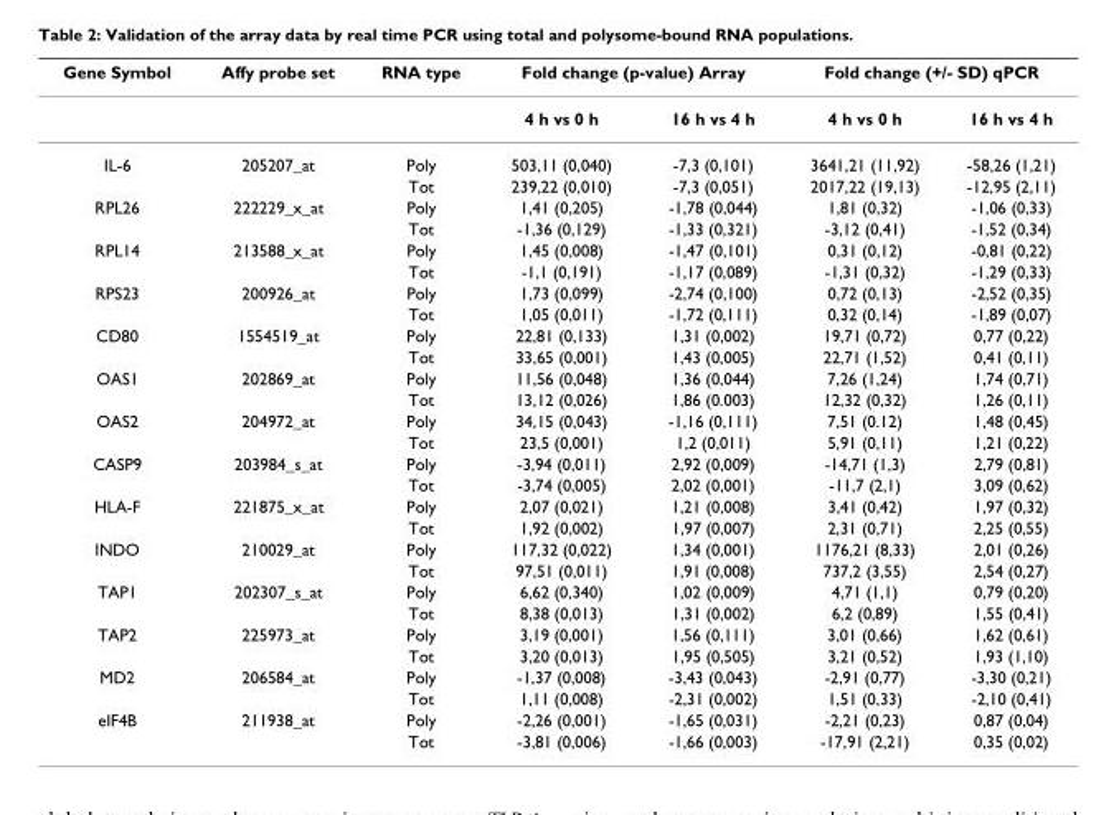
<table><thead><tr><td rowspan="2">Gene Symbol</td><td rowspan="2">Affy probe set</td><td rowspan="2">RNA type</td><td colspan="2">Fold change (p-value) Array</td><td colspan="2">Fold change (+/- SD) qPCR</td></tr><tr><td>4 h vs 0 h</td><td>16 h vs 4 h</td><td>4 h vs 0 h</td><td>16 h vs 4 h</td></tr></thead><tbody><tr><td rowspan="2">IL-6</td><td>205207_at</td><td>Poly</td><td>503,11 (0,040)</td><td>-7,3 (0,101)</td><td>3641,21 (11,92)</td><td>-58,26 (1,21)</td></tr><tr><td></td><td>Tot</td><td>239,22 (0,010)</td><td>-7,3 (0,051)</td><td>2017,22 (19,13)</td><td>-12,95 (2,11)</td></tr><tr><td rowspan="2">RPL26</td><td>222229_x_at</td><td>Poly</td><td>1,41 (0,205)</td><td>-1,78 (0,044)</td><td>1,81 (0,32)</td><td>-1,06 (0,33)</td></tr><tr><td></td><td>Tot</td><td>-1,36 (0,129)</td><td>-1,33 (0,321)</td><td>-3,12 (0,41)</td><td>-1,52 (0,34)</td></tr><tr><td rowspan="2">RPL14</td><td>213588_x_at</td><td>Poly</td><td>1,45 (0,008)</td><td>-1,47 (0,101)</td><td>0,31 (0,12)</td><td>-0,81 (0,22)</td></tr><tr><td></td><td>Tot</td><td>-1,1 (0,191)</td><td>-1,17 (0,089)</td><td>-1,31 (0,32)</td><td>-1,29 (0,33)</td></tr><tr><td rowspan="2">RPS23</td><td>200926_at</td><td>Poly</td><td>1,73 (0,099)</td><td>-2,74 (0,100)</td><td>0,72 (0,13)</td><td>-2,52 (0,35)</td></tr><tr><td></td><td>Tot</td><td>1,05 (0,011)</td><td>-1,72 (0,111)</td><td>0,32 (0,14)</td><td>-1,89 (0,07)</td></tr><tr><td rowspan="2">CD80</td><td>1554519_at</td><td>Poly</td><td>22,81 (0,133)</td><td>1,31 (0,002)</td><td>19,71 (0,72)</td><td>0,77 (0,22)</td></tr><tr><td></td><td>Tot</td><td>33,65 (0,001)</td><td>1,43 (0,005)</td><td>22,71 (1,52)</td><td>0,41 (0,11)</td></tr><tr><td rowspan="2">OAS1</td><td>202869_at</td><td>Poly</td><td>11,56 (0,048)</td><td>1,36 (0,044)</td><td>7,26 (1,24)</td><td>1,74 (0,71)</td></tr><tr><td></td><td>Tot</td><td>13,12 (0,026)</td><td>1,86 (0.003)</td><td>12,32 (0,32)</td><td>1,26 (0,11)</td></tr><tr><td rowspan="2">OAS2</td><td>204972_at</td><td>Poly</td><td>34,15 (0,043)</td><td>-1,16 (0,111)</td><td>7,51 (0.12)</td><td>1,48 (0,45)</td></tr><tr><td></td><td>Tot</td><td>23,5 (0,001)</td><td>1,2 (0,011)</td><td>5,91 (0,11)</td><td>1,21 (0,22)</td></tr><tr><td rowspan="2">CASP9</td><td>203984_s_at</td><td>Poly</td><td>-3,94 (0,011)</td><td>2,92 (0,009)</td><td>-14,71 (1,3)</td><td>2,79 (0,81)</td></tr><tr><td></td><td>Tot</td><td>-3,74 (0,005)</td><td>2,02 (0,001)</td><td>-11,7 (2,1)</td><td>3,09 (0,62)</td></tr><tr><td rowspan="2">HLA-F</td><td>221875_x_at</td><td>Poly</td><td>2,07 (0,021)</td><td>1,21 (0,008)</td><td>3,41 (0,42)</td><td>1,97 (0,32)</td></tr><tr><td></td><td>Tot</td><td>1,92 (0,002)</td><td>1,97 (0,007)</td><td>2,31 (0,71)</td><td>2,25 (0,55)</td></tr><tr><td rowspan="2">INDO</td><td>210029_at</td><td>Poly</td><td>117,32 (0,022)</td><td>1,34 (0,001)</td><td>1176,21 (8,33)</td><td>2,01 (0,26)</td></tr><tr><td></td><td>Tot</td><td>97,51 (0,011)</td><td>1,91 (0,008)</td><td>737,2 (3,55)</td><td>2,54 (0,27)</td></tr><tr><td rowspan="2">TAP1</td><td>202307_s_at</td><td>Poly</td><td>6,62 (0,340)</td><td>1,02 (0,009)</td><td>4,71 (1,1)</td><td>0,79 (0,20)</td></tr><tr><td></td><td>Tot</td><td>8,38 (0,013)</td><td>1,31 (0,002)</td><td>6,2 (0,89)</td><td>1,55 (0,41)</td></tr><tr><td rowspan="2">TAP2</td><td>225973_at</td><td>Poly</td><td>3,19 (0,001)</td><td>1,56 (0,111)</td><td>3,01 (0,66)</td><td>1,62 (0,61)</td></tr><tr><td></td><td>Tot</td><td>3,20 (0,013)</td><td>1,95 (0,505)</td><td>3,21 (0,52)</td><td>1,93 (1,10)</td></tr><tr><td rowspan="2">MD2</td><td>206584_at</td><td>Poly</td><td>-1,37 (0,008)</td><td>-3,43 (0,043)</td><td>-2,91 (0,77)</td><td>-3,30 (0,21)</td></tr><tr><td></td><td>Tot</td><td>1,11 (0,008)</td><td>-2,31 (0,002)</td><td>1,51 (0,33)</td><td>-2,10 (0,41)</td></tr><tr><td rowspan="2">eIF4B</td><td>211938_at</td><td>Poly</td><td>-2,26 (0,001)</td><td>-1,65 (0,031)</td><td>-2,21 (0,23)</td><td>0,87 (0,04)</td></tr><tr><td></td><td>Tot</td><td>-3,81 (0,006)</td><td>-1,66 (0,003)</td><td>-17,91 (2,21)</td><td>0,35 (0,02)</td></tr></tbody></table>